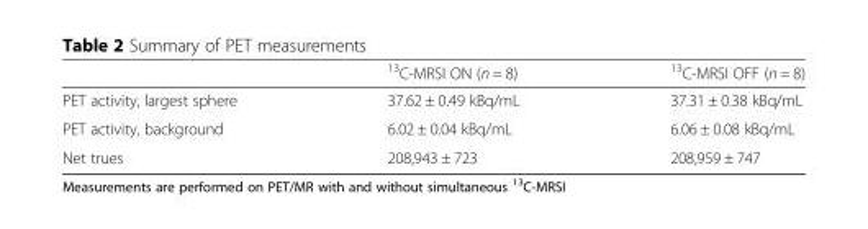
<table><thead><tr><td></td><td><sup>13</sup>C-MRSI ON (n = 8)</td><td><sup>13</sup>C-MRSI OFF (n = 8)</td></tr></thead><tbody><tr><td>PET activity, largest sphere</td><td>37.62 ± 0.49 kBq/mL</td><td>37.31 ± 0.38 kBq/mL</td></tr><tr><td>PET activity, background</td><td>6.02 ± 0.04 kBq/mL</td><td>6.06 ± 0.08 kBq/mL</td></tr><tr><td>Net trues</td><td>208,943 ± 723</td><td>208,959 ± 747</td></tr></tbody></table>